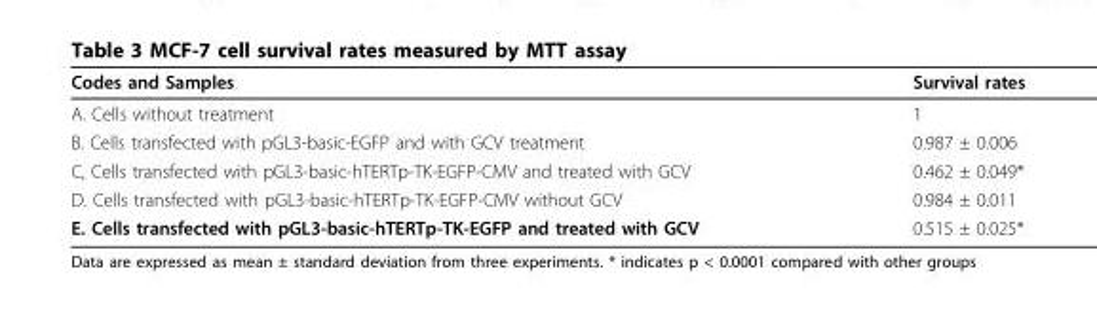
<table><thead><tr><td>Codes and Samples</td><td>Survival rates</td></tr></thead><tbody><tr><td>A. Cells without treatment</td><td>1</td></tr><tr><td>B. Cells transfected with pGL3-basic-EGFP and with GCV treatment</td><td>0.987 ± 0.006</td></tr><tr><td>C, Cells transfected with pGL3-basic-hTERTp-TK-EGFP-CMV and treated with GCV</td><td>0.462 ± 0.049*</td></tr><tr><td>D. Cells transfected with pGL3-basic-hTERTp-TK-EGFP-CMV without GCV</td><td>0.984 ± 0.011</td></tr><tr><td>E. Cells transfected with pGL3-basic-hTERTp-TK-EGFP and treated with GCV</td><td>0.515 ± 0.025*</td></tr></tbody></table>